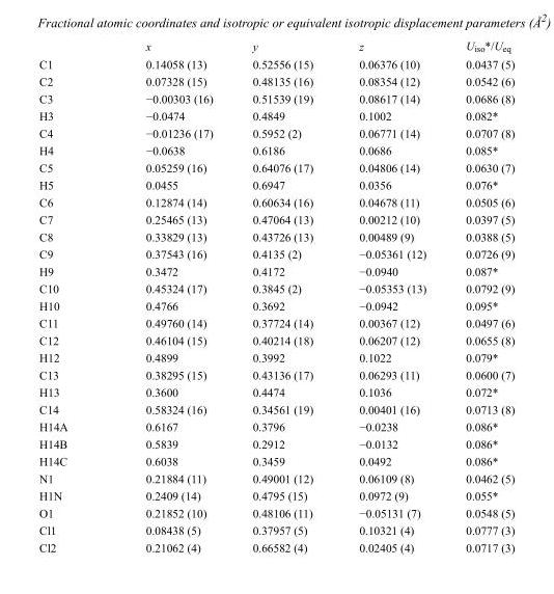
<table><thead><tr><td></td><td>x</td><td>y</td><td>z</td><td>U<sub>iso</sub>*/U<sub>eq</sub></td></tr></thead><tbody><tr><td>C1</td><td>0.14058 (13)</td><td>0.52556 (15)</td><td>0.06376 (10)</td><td>0.0437 (5)</td></tr><tr><td>C2</td><td>0.07328 (15)</td><td>0.48135 (16)</td><td>0.08354 (12)</td><td>0.0542 (6)</td></tr><tr><td>C3</td><td>−0.00303 (16)</td><td>0.51539 (19)</td><td>0.08617 (14)</td><td>0.0686 (8)</td></tr><tr><td>H3</td><td>−0.0474</td><td>0.4849</td><td>0.1002</td><td>0.082*</td></tr><tr><td>C4</td><td>−0.01236 (17)</td><td>0.5952 (2)</td><td>0.06771 (14)</td><td>0.0707 (8)</td></tr><tr><td>H4</td><td>−0.0638</td><td>0.6186</td><td>0.0686</td><td>0.085*</td></tr><tr><td>C5</td><td>0.05259 (16)</td><td>0.64076 (17)</td><td>0.04806 (14)</td><td>0.0630 (7)</td></tr><tr><td>H5</td><td>0.0455</td><td>0.6947</td><td>0.0356</td><td>0.076*</td></tr><tr><td>C6</td><td>0.12874 (14)</td><td>0.60634 (16)</td><td>0.04678 (11)</td><td>0.0505 (6)</td></tr><tr><td>C7</td><td>0.25465 (13)</td><td>0.47064 (13)</td><td>0.00212 (10)</td><td>0.0397 (5)</td></tr><tr><td>C8</td><td>0.33829 (13)</td><td>0.43726 (13)</td><td>0.00489 (9)</td><td>0.0388 (5)</td></tr><tr><td>C9</td><td>0.37543 (16)</td><td>0.4135 (2)</td><td>−0.05361 (12)</td><td>0.0726 (9)</td></tr><tr><td>H9</td><td>0.3472</td><td>0.4172</td><td>−0.0940</td><td>0.087*</td></tr><tr><td>C10</td><td>0.45324 (17)</td><td>0.3845 (2)</td><td>−0.05353 (13)</td><td>0.0792 (9)</td></tr><tr><td>H10</td><td>0.4766</td><td>0.3692</td><td>−0.0942</td><td>0.095*</td></tr><tr><td>C11</td><td>0.49760 (14)</td><td>0.37724 (14)</td><td>0.00367 (12)</td><td>0.0497 (6)</td></tr><tr><td>C12</td><td>0.46104 (15)</td><td>0.40214 (18)</td><td>0.06207 (12)</td><td>0.0655 (8)</td></tr><tr><td>H12</td><td>0.4899</td><td>0.3992</td><td>0.1022</td><td>0.079*</td></tr><tr><td>C13</td><td>0.38295 (15)</td><td>0.43136 (17)</td><td>0.06293 (11)</td><td>0.0600 (7)</td></tr><tr><td>H13</td><td>0.3600</td><td>0.4474</td><td>0.1036</td><td>0.072*</td></tr><tr><td>C14</td><td>0.58324 (16)</td><td>0.34561 (19)</td><td>0.00401 (16)</td><td>0.0713 (8)</td></tr><tr><td>H14A</td><td>0.6167</td><td>0.3796</td><td>−0.0238</td><td>0.086*</td></tr><tr><td>H14B</td><td>0.5839</td><td>0.2912</td><td>−0.0132</td><td>0.086*</td></tr><tr><td>H14C</td><td>0.6038</td><td>0.3459</td><td>0.0492</td><td>0.086*</td></tr><tr><td>N1</td><td>0.21884 (11)</td><td>0.49001 (12)</td><td>0.06109 (8)</td><td>0.0462 (5)</td></tr><tr><td>H1N</td><td>0.2409 (14)</td><td>0.4795 (15)</td><td>0.0972 (9)</td><td>0.055*</td></tr><tr><td>O1</td><td>0.21852 (10)</td><td>0.48106 (11)</td><td>−0.05131 (7)</td><td>0.0548 (5)</td></tr><tr><td>Cl1</td><td>0.08438 (5)</td><td>0.37957 (5)</td><td>0.10321 (4)</td><td>0.0777 (3)</td></tr><tr><td>Cl2</td><td>0.21062 (4)</td><td>0.66582 (4)</td><td>0.02405 (4)</td><td>0.0717 (3)</td></tr></tbody></table>